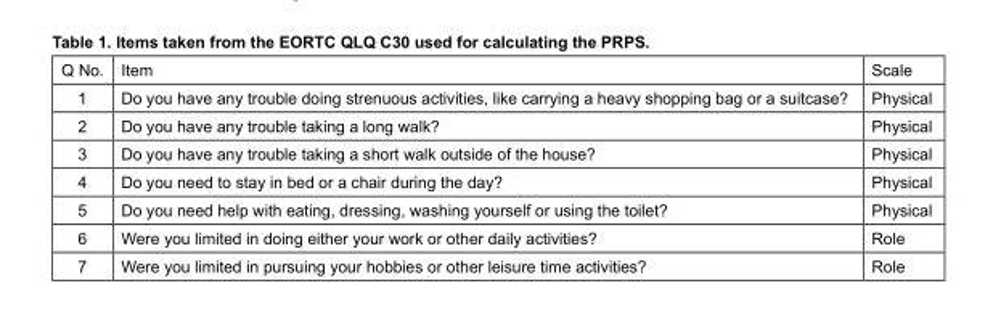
<table><thead><tr><td>Q No.</td><td>Item</td><td>Scale</td></tr></thead><tbody><tr><td>1</td><td>Do you have any trouble doing strenuous activities, like carrying a heavy shopping bag or a suitcase?</td><td>Physical</td></tr><tr><td>2</td><td>Do you have any trouble taking a long walk?</td><td>Physical</td></tr><tr><td>3</td><td>Do you have any trouble taking a short walk outside of the house?</td><td>Physical</td></tr><tr><td>4</td><td>Do you need to stay in bed or a chair during the day?</td><td>Physical</td></tr><tr><td>5</td><td>Do you need help with eating, dressing, washing yourself or using the toilet?</td><td>Physical</td></tr><tr><td>6</td><td>Were you limited in doing either your work or other daily activities?</td><td>Role</td></tr><tr><td>7</td><td>Were you limited in pursuing your hobbies or other leisure time activities?</td><td>Role</td></tr></tbody></table>